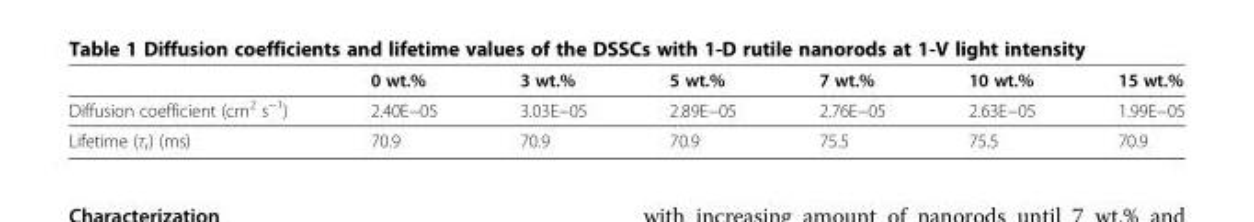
<table><thead><tr><td></td><td>0 wt.%</td><td>3 wt.%</td><td>5 wt.%</td><td>7 wt.%</td><td>10 wt.%</td><td>15 wt.%</td></tr></thead><tbody><tr><td>Diffusion coefficient (cm<sup>2</sup> s<sup>−1</sup>)</td><td>2.40E−05</td><td>3.03E−05</td><td>2.89E−05</td><td>2.76E−05</td><td>2.63E−05</td><td>1.99E−05</td></tr><tr><td>Lifetime (τ<sub>r</sub>) (ms)</td><td>70.9</td><td>70.9</td><td>70.9</td><td>75.5</td><td>75.5</td><td>70.9</td></tr></tbody></table>